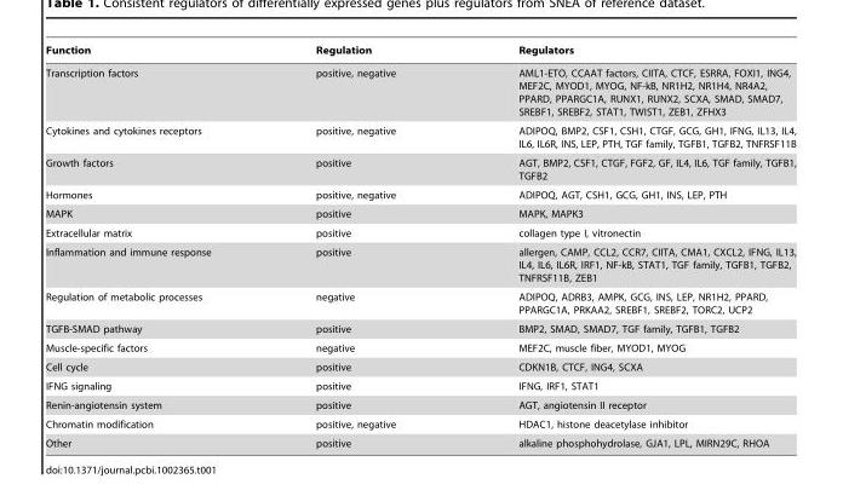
<table><thead><tr><td>Function</td><td>Regulation</td><td>Regulators</td></tr></thead><tbody><tr><td>Transcription factors</td><td>positive, negative</td><td>AML1-ETO, CCAAT factors, CIITA, CTCF, ESRRA, FOXI1, ING4, MEF2C, MYOD1, MYOG, NF-kB, NR1H2, NR1H4, NR4A2, PPARD, PPARGC1A, RUNX1, RUNX2, SCXA, SMAD, SMAD7, SREBF1, SREBF2, STAT1, TWIST1, ZEB1, ZFHX3</td></tr><tr><td>Cytokines and cytokines receptors</td><td>positive, negative</td><td>ADIPOQ, BMP2, CSF1, CSH1, CTGF, GCG, GH1, IFNG, IL13, IL4, IL6, IL6R, INS, LEP, PTH, TGF family, TGFB1, TGFB2, TNFRSF11B</td></tr><tr><td>Growth factors</td><td>positive</td><td>AGT, BMP2, CSF1, CTGF, FGF2, GF, IL4, IL6, TGF family, TGFB1, TGFB2</td></tr><tr><td>Hormones</td><td>positive, negative</td><td>ADIPOQ, AGT, CSH1, GCG, GH1, INS, LEP, PTH</td></tr><tr><td>MAPK</td><td>positive</td><td>MAPK, MAPK3</td></tr><tr><td>Extracellular matrix</td><td>positive</td><td>collagen type I, vitronectin</td></tr><tr><td>Inflammation and immune response</td><td>positive</td><td>allergen, CAMP, CCL2, CCR7, CIITA, CMA1, CXCL2, IFNG, IL13, IL4, IL6, IL6R, IRF1, NF-kB, STAT1, TGF family, TGFB1, TGFB2, TNFRSF11B, ZEB1</td></tr><tr><td>Regulation of metabolic processes</td><td>negative</td><td>ADIPOQ, ADRB3, AMPK, GCG, INS, LEP, NR1H2, PPARD, PPARGC1A, PRKAA2, SREBF1, SREBF2, TORC2, UCP2</td></tr><tr><td>TGFB-SMAD pathway</td><td>positive</td><td>BMP2, SMAD, SMAD7, TGF family, TGFB1, TGFB2</td></tr><tr><td>Muscle-specific factors</td><td>negative</td><td>MEF2C, muscle fiber, MYOD1, MYOG</td></tr><tr><td>Cell cycle</td><td>positive</td><td>CDKN1B, CTCF, ING4, SCXA</td></tr><tr><td>IFNG signaling</td><td>positive</td><td>IFNG, IRF1, STAT1</td></tr><tr><td>Renin-angiotensin system</td><td>positive</td><td>AGT, angiotensin II receptor</td></tr><tr><td>Chromatin modification</td><td>positive, negative</td><td>HDAC1, histone deacetylase inhibitor</td></tr><tr><td>Other</td><td>positive</td><td>alkaline phosphohydrolase, GJA1, LPL, MIRN29C, RHOA</td></tr></tbody></table>